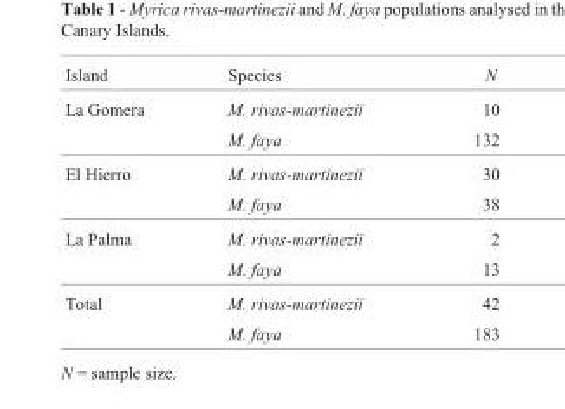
<table><thead><tr><td>Island</td><td>Species</td><td>N</td></tr></thead><tbody><tr><td rowspan="2">La Gomera</td><td>M. rivas-martinezii</td><td>10</td></tr><tr><td>M. faya</td><td>132</td></tr><tr><td rowspan="2">El Hierro</td><td>M. rivas-martinezii</td><td>30</td></tr><tr><td>M. faya</td><td>38</td></tr><tr><td rowspan="2">La Palma</td><td>M. rivas-martinezii</td><td>2</td></tr><tr><td>M. faya</td><td>13</td></tr><tr><td rowspan="2">Total</td><td>M. rivas-martinezii</td><td>42</td></tr><tr><td>M. faya</td><td>183</td></tr></tbody></table>